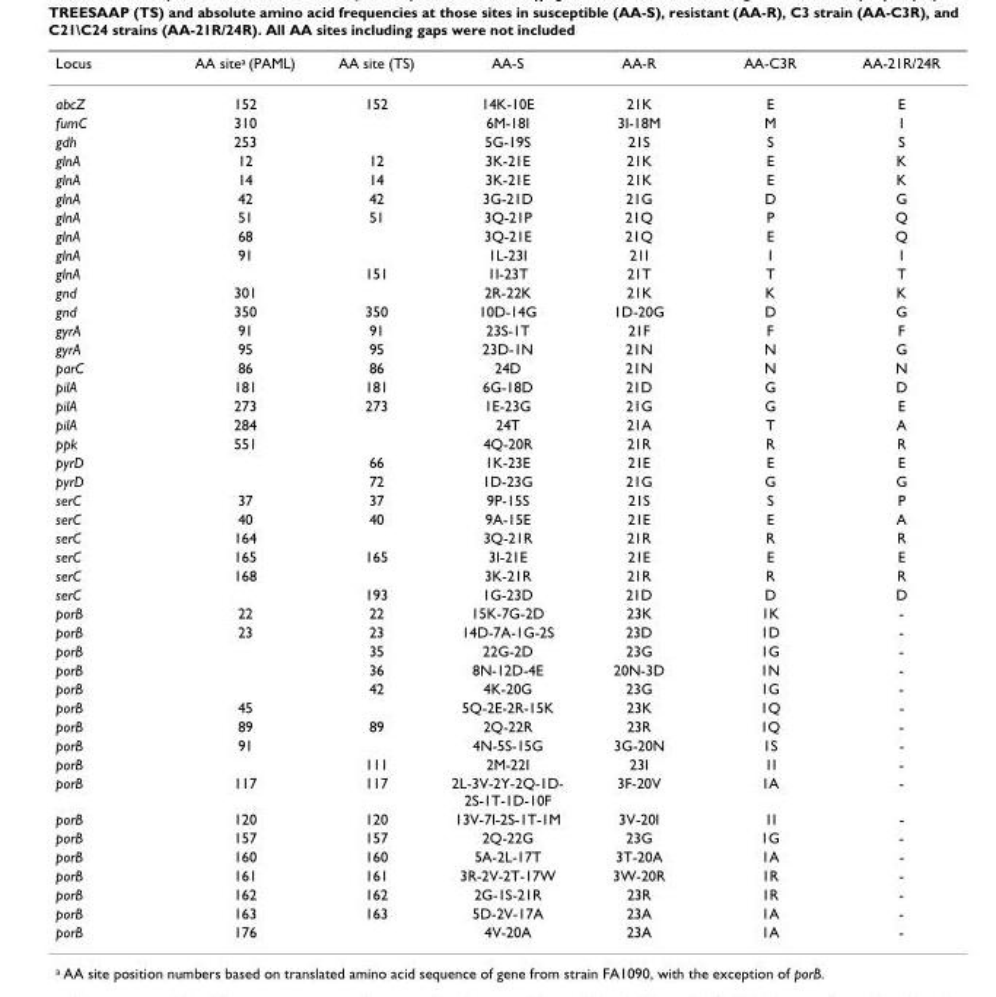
<table><thead><tr><td>Locus</td><td>AA site<sup>a</sup> (PAML)</td><td>AA site (TS)</td><td>AA-S</td><td>AA-R</td><td>AA-C3R</td><td>AA-21R/24R</td></tr></thead><tbody><tr><td>abcZ</td><td>152</td><td>152</td><td>14K-10E</td><td>21K</td><td>E</td><td>E</td></tr><tr><td>fumC</td><td>310</td><td></td><td>6M-18I</td><td>3I-18M</td><td>M</td><td>I</td></tr><tr><td>gdh</td><td>253</td><td></td><td>5G-19S</td><td>21S</td><td>S</td><td>S</td></tr><tr><td>glnA</td><td>12</td><td>12</td><td>3K-21E</td><td>21K</td><td>E</td><td>K</td></tr><tr><td>glnA</td><td>14</td><td>14</td><td>3K-21E</td><td>21K</td><td>E</td><td>K</td></tr><tr><td>glnA</td><td>42</td><td>42</td><td>3G-21D</td><td>21G</td><td>D</td><td>G</td></tr><tr><td>glnA</td><td>51</td><td>51</td><td>3Q-21P</td><td>21Q</td><td>P</td><td>Q</td></tr><tr><td>glnA</td><td>68</td><td></td><td>3Q-21E</td><td>21Q</td><td>E</td><td>Q</td></tr><tr><td>glnA</td><td>91</td><td></td><td>1L-23I</td><td>21I</td><td>I</td><td>I</td></tr><tr><td>glnA</td><td></td><td>151</td><td>1I-23T</td><td>21T</td><td>T</td><td>T</td></tr><tr><td>gnd</td><td>301</td><td></td><td>2R-22K</td><td>21K</td><td>K</td><td>K</td></tr><tr><td>gnd</td><td>350</td><td>350</td><td>10D-14G</td><td>1D-20G</td><td>D</td><td>G</td></tr><tr><td>gyrA</td><td>91</td><td>91</td><td>23S-1T</td><td>21F</td><td>F</td><td>F</td></tr><tr><td>gyrA</td><td>95</td><td>95</td><td>23D-1N</td><td>21N</td><td>N</td><td>G</td></tr><tr><td>parC</td><td>86</td><td>86</td><td>24D</td><td>21N</td><td>N</td><td>N</td></tr><tr><td>pilA</td><td>181</td><td>181</td><td>6G-18D</td><td>21D</td><td>G</td><td>D</td></tr><tr><td>pilA</td><td>273</td><td>273</td><td>1E-23G</td><td>21G</td><td>G</td><td>E</td></tr><tr><td>pilA</td><td>284</td><td></td><td>24T</td><td>21A</td><td>T</td><td>A</td></tr><tr><td>ppk</td><td>551</td><td></td><td>4Q-20R</td><td>21R</td><td>R</td><td>R</td></tr><tr><td>pyrD</td><td></td><td>66</td><td>1K-23E</td><td>21E</td><td>E</td><td>E</td></tr><tr><td>pyrD</td><td></td><td>72</td><td>1D-23G</td><td>21G</td><td>G</td><td>G</td></tr><tr><td>serC</td><td>37</td><td>37</td><td>9P-15S</td><td>21S</td><td>S</td><td>P</td></tr><tr><td>serC</td><td>40</td><td>40</td><td>9A-15E</td><td>21E</td><td>E</td><td>A</td></tr><tr><td>serC</td><td>164</td><td></td><td>3Q-21R</td><td>21R</td><td>R</td><td>R</td></tr><tr><td>serC</td><td>165</td><td>165</td><td>3I-21E</td><td>21E</td><td>E</td><td>E</td></tr><tr><td>serC</td><td>168</td><td></td><td>3K-21R</td><td>21R</td><td>R</td><td>R</td></tr><tr><td>serC</td><td></td><td>193</td><td>1G-23D</td><td>21D</td><td>D</td><td>D</td></tr><tr><td>porB</td><td>22</td><td>22</td><td>15K-7G-2D</td><td>23K</td><td>1K</td><td>-</td></tr><tr><td>porB</td><td>23</td><td>23</td><td>14D-7A-1G-2S</td><td>23D</td><td>1D</td><td>-</td></tr><tr><td>porB</td><td></td><td>35</td><td>22G-2D</td><td>23G</td><td>1G</td><td>-</td></tr><tr><td>porB</td><td></td><td>36</td><td>8N-12D-4E</td><td>20N-3D</td><td>1N</td><td>-</td></tr><tr><td>porB</td><td></td><td>42</td><td>4K-20G</td><td>23G</td><td>1G</td><td>-</td></tr><tr><td>porB</td><td>45</td><td></td><td>5Q-2E-2R-15K</td><td>23K</td><td>1Q</td><td>-</td></tr><tr><td>porB</td><td>89</td><td>89</td><td>2Q-22R</td><td>23R</td><td>1Q</td><td>-</td></tr><tr><td>porB</td><td>91</td><td></td><td>4N-5S-15G</td><td>3G-20N</td><td>1S</td><td>-</td></tr><tr><td>porB</td><td></td><td>111</td><td>2M-22I</td><td>23I</td><td>1I</td><td>-</td></tr><tr><td>porB</td><td>117</td><td>117</td><td>2L-3V-2Y-2Q-1D- 2S-1T-1D-10F</td><td>3F-20V</td><td>1A</td><td>-</td></tr><tr><td>porB</td><td>120</td><td>120</td><td>13V-7I-2S-1T-1M</td><td>3V-20I</td><td>1I</td><td>-</td></tr><tr><td>porB</td><td>157</td><td>157</td><td>2Q-22G</td><td>23G</td><td>1G</td><td>-</td></tr><tr><td>porB</td><td>160</td><td>160</td><td>5A-2L-17T</td><td>3T-20A</td><td>1A</td><td>-</td></tr><tr><td>porB</td><td>161</td><td>161</td><td>3R-2V-2T-17W</td><td>3W-20R</td><td>1R</td><td>-</td></tr><tr><td>porB</td><td>162</td><td>162</td><td>2G-1S-21R</td><td>23R</td><td>1R</td><td>-</td></tr><tr><td>porB</td><td>163</td><td>163</td><td>5D-2V-17A</td><td>23A</td><td>1A</td><td>-</td></tr><tr><td>porB</td><td>176</td><td></td><td>4V-20A</td><td>23A</td><td>1A</td><td>-</td></tr></tbody></table>